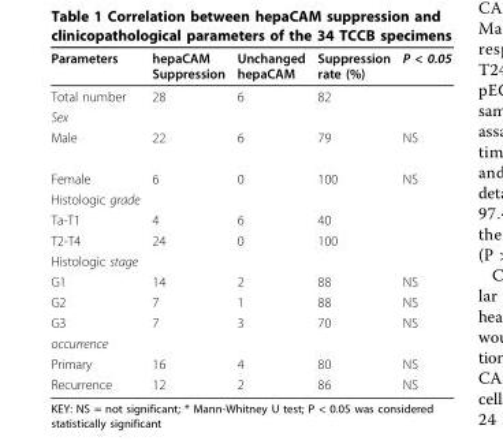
<table><thead><tr><td>Parameters</td><td>hepaCAM Suppression</td><td>Unchanged hepaCAM</td><td>Suppression rate (%)</td><td>P &lt; 0.05</td></tr></thead><tbody><tr><td>Total number</td><td>28</td><td>6</td><td>82</td><td></td></tr><tr><td colspan="5">Sex</td></tr><tr><td>Male</td><td>22</td><td>6</td><td>79</td><td>NS</td></tr><tr><td>Female</td><td>6</td><td>0</td><td>100</td><td>NS</td></tr><tr><td colspan="5">Histologic grade</td></tr><tr><td>Ta-T1</td><td>4</td><td>6</td><td>40</td><td></td></tr><tr><td>T2-T4</td><td>24</td><td>0</td><td>100</td><td></td></tr><tr><td colspan="5">Histologic stage</td></tr><tr><td>G1</td><td>14</td><td>2</td><td>88</td><td>NS</td></tr><tr><td>G2</td><td>7</td><td>1</td><td>88</td><td>NS</td></tr><tr><td>G3</td><td>7</td><td>3</td><td>70</td><td>NS</td></tr><tr><td colspan="5">occurrence</td></tr><tr><td>Primary</td><td>16</td><td>4</td><td>80</td><td>NS</td></tr><tr><td>Recurrence</td><td>12</td><td>2</td><td>86</td><td>NS</td></tr></tbody></table>